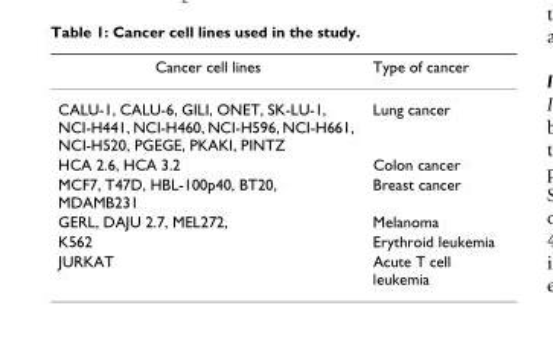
<table><thead><tr><td>Cancer cell lines</td><td>Type of cancer</td></tr></thead><tbody><tr><td>CALU-1, CALU-6, GILI, ONET, SK-LU-1, NCI-H441, NCI-H460, NCI-H596, NCI-H661, NCI-H520, PGEGE, PKAKI, PINTZ</td><td>Lung cancer</td></tr><tr><td>HCA 2.6, HCA 3.2</td><td>Colon cancer</td></tr><tr><td>MCF7, T47D, HBL-100p40, BT20, MDAMB231</td><td>Breast cancer</td></tr><tr><td>GERL, DAJU 2.7, MEL272,</td><td>Melanoma</td></tr><tr><td>K562</td><td>Erythroid leukemia</td></tr><tr><td>JURKAT</td><td>Acute T cell leukemia</td></tr></tbody></table>